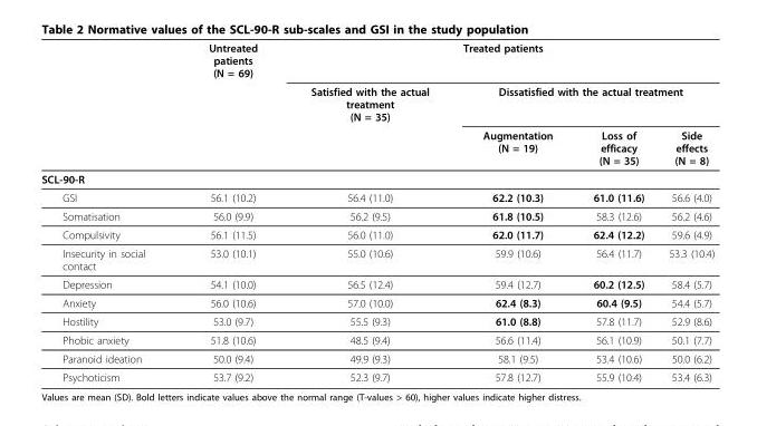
<table><thead><tr><td rowspan="3"></td><td rowspan="3">Untreated patients (N = 69)</td><td colspan="4">Treated patients</td></tr><tr><td rowspan="2">Satisfied with the actual treatment (N = 35)</td><td colspan="3">Dissatisfied with the actual treatment</td></tr><tr><td>Augmentation (N = 19)</td><td>Loss of efficacy (N = 35)</td><td>Side effects (N = 8)</td></tr></thead><tbody><tr><td colspan="6">SCL-90-R</td></tr><tr><td>GSI</td><td>56.1 (10.2)</td><td>56.4 (11.0)</td><td>62.2 (10.3)</td><td>61.0 (11.6)</td><td>56.6 (4.0)</td></tr><tr><td>Somatisation</td><td>56.0 (9.9)</td><td>56.2 (9.5)</td><td>61.8 (10.5)</td><td>58.3 (12.6)</td><td>56.2 (4.6)</td></tr><tr><td>Compulsivity</td><td>56.1 (11.5)</td><td>56.0 (11.0)</td><td>62.0 (11.7)</td><td>62.4 (12.2)</td><td>59.6 (4.9)</td></tr><tr><td>Insecurity in social contact</td><td>53.0 (10.1)</td><td>55.0 (10.6)</td><td>59.9 (10.6)</td><td>56.4 (11.7)</td><td>53.3 (10.4)</td></tr><tr><td>Depression</td><td>54.1 (10.0)</td><td>56.5 (12.4)</td><td>59.4 (12.7)</td><td>60.2 (12.5)</td><td>58.4 (5.7)</td></tr><tr><td>Anxiety</td><td>56.0 (10.6)</td><td>57.0 (10.0)</td><td>62.4 (8.3)</td><td>60.4 (9.5)</td><td>54.4 (5.7)</td></tr><tr><td>Hostility</td><td>53.0 (9.7)</td><td>55.5 (9.3)</td><td>61.0 (8.8)</td><td>57.8 (11.7)</td><td>52.9 (8.6)</td></tr><tr><td>Phobic anxiety</td><td>51.8 (10.6)</td><td>48.5 (9.4)</td><td>56.6 (11.4)</td><td>56.1 (10.9)</td><td>50.1 (7.7)</td></tr><tr><td>Paranoid ideation</td><td>50.0 (9.4)</td><td>49.9 (9.3)</td><td>58.1 (9.5)</td><td>53.4 (10.6)</td><td>50.0 (6.2)</td></tr><tr><td>Psychoticism</td><td>53.7 (9.2)</td><td>52.3 (9.7)</td><td>57.8 (12.7)</td><td>55.9 (10.4)</td><td>53.4 (6.3)</td></tr></tbody></table>